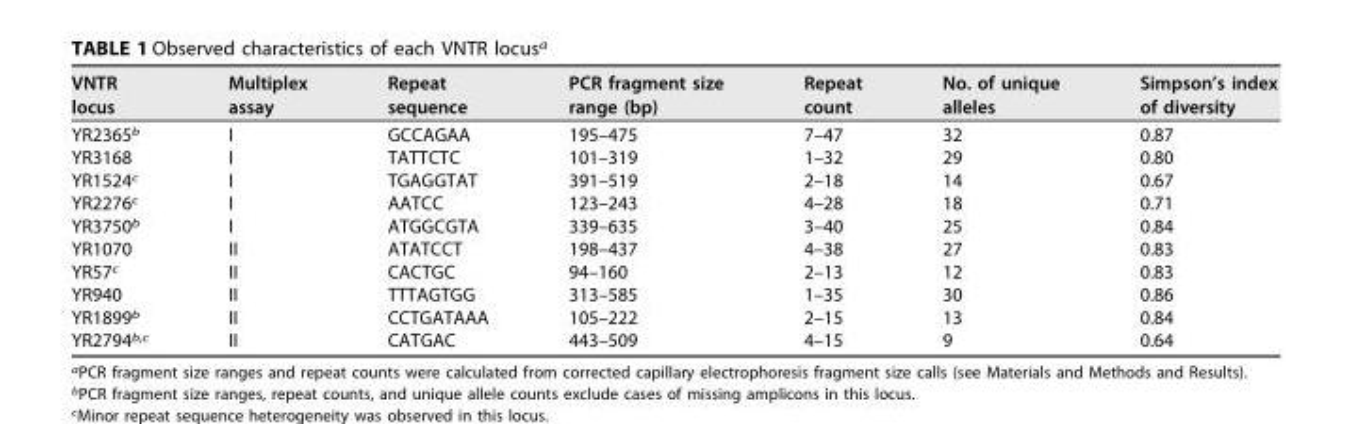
<table><thead><tr><td>VNTR locus</td><td>Multiplex assay</td><td>Repeat sequence</td><td>PCR fragment size range (bp)</td><td>Repeat count</td><td>No. of unique alleles</td><td>Simpson’s index of diversity</td></tr></thead><tbody><tr><td>YR2365<sup>b</sup></td><td>I</td><td>GCCAGAA</td><td>195–475</td><td>7–47</td><td>32</td><td>0.87</td></tr><tr><td>YR3168</td><td>I</td><td>TATTCTC</td><td>101–319</td><td>1–32</td><td>29</td><td>0.80</td></tr><tr><td>YR1524<sup>c</sup></td><td>I</td><td>TGAGGTAT</td><td>391–519</td><td>2–18</td><td>14</td><td>0.67</td></tr><tr><td>YR2276<sup>c</sup></td><td>I</td><td>AATCC</td><td>123–243</td><td>4–28</td><td>18</td><td>0.71</td></tr><tr><td>YR3750<sup>b</sup></td><td>I</td><td>ATGGCGTA</td><td>339–635</td><td>3–40</td><td>25</td><td>0.84</td></tr><tr><td>YR1070</td><td>II</td><td>ATATCCT</td><td>198–437</td><td>4–38</td><td>27</td><td>0.83</td></tr><tr><td>YR57<sup>c</sup></td><td>II</td><td>CACTGC</td><td>94–160</td><td>2–13</td><td>12</td><td>0.83</td></tr><tr><td>YR940</td><td>II</td><td>TTTAGTGG</td><td>313–585</td><td>1–35</td><td>30</td><td>0.86</td></tr><tr><td>YR1899<sup>b</sup></td><td>II</td><td>CCTGATAAA</td><td>105–222</td><td>2–15</td><td>13</td><td>0.84</td></tr><tr><td>YR2794<sup>b,c</sup></td><td>II</td><td>CATGAC</td><td>443–509</td><td>4–15</td><td>9</td><td>0.64</td></tr></tbody></table>